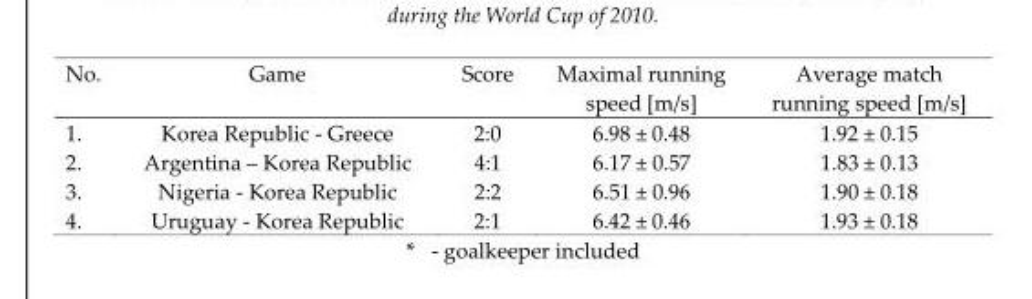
<table><thead><tr><td>No.</td><td>Game</td><td>Score</td><td>Maximal running speed [m/s]</td><td>Average match running speed [m/s]</td></tr></thead><tbody><tr><td>1.</td><td>Korea Republic - Greece</td><td>2:0</td><td>6.98 ± 0.48</td><td>1.92 ± 0.15</td></tr><tr><td>2.</td><td>Argentina – Korea Republic</td><td>4:1</td><td>6.17 ± 0.57</td><td>1.83 ± 0.13</td></tr><tr><td>3.</td><td>Nigeria - Korea Republic</td><td>2:2</td><td>6.51 ± 0.96</td><td>1.90 ± 0.18</td></tr><tr><td>4.</td><td>Uruguay - Korea Republic</td><td>2:1</td><td>6.42 ± 0.46</td><td>1.93 ± 0.18</td></tr></tbody></table>